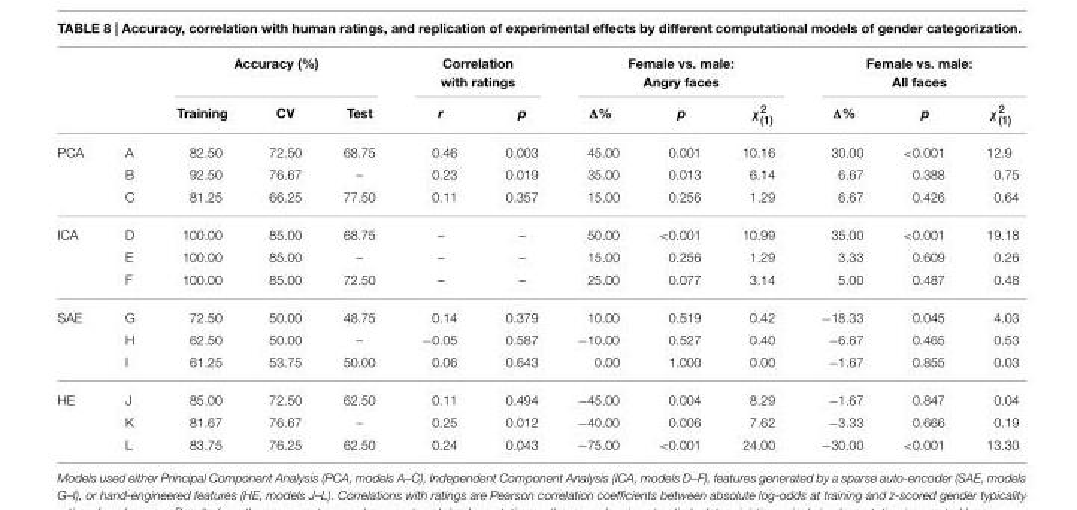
<table><thead><tr><td rowspan="2"></td><td rowspan="2"></td><td colspan="3">Accuracy (%)</td><td colspan="2">Correlation with ratings</td><td colspan="3">Female vs. male: Angry faces</td><td colspan="3">Female vs. male: All faces</td></tr><tr><td>Training</td><td>CV</td><td>Test</td><td>r</td><td>p</td><td>Δ%</td><td>p</td><td>χ<sup>2</sup> <sub>(1)</sub></td><td>Δ%</td><td>p</td><td>χ<sup>2</sup> <sub>(1)</sub></td></tr></thead><tbody><tr><td rowspan="3">PCA</td><td>A</td><td>82.50</td><td>72.50</td><td>68.75</td><td>0.46</td><td>0.003</td><td>45.00</td><td>0.001</td><td>10.16</td><td>30.00</td><td>&lt;0.001</td><td>12.9</td></tr><tr><td>B</td><td>92.50</td><td>76.67</td><td>–</td><td>0.23</td><td>0.019</td><td>35.00</td><td>0.013</td><td>6.14</td><td>6.67</td><td>0.388</td><td>0.75</td></tr><tr><td>C</td><td>81.25</td><td>66.25</td><td>77.50</td><td>0.11</td><td>0.357</td><td>15.00</td><td>0.256</td><td>1.29</td><td>6.67</td><td>0.426</td><td>0.64</td></tr><tr><td rowspan="3">ICA</td><td>D</td><td>100.00</td><td>85.00</td><td>68.75</td><td>–</td><td>–</td><td>50.00</td><td>&lt;0.001</td><td>10.99</td><td>35.00</td><td>&lt;0.001</td><td>19.18</td></tr><tr><td>E</td><td>100.00</td><td>85.00</td><td>–</td><td>–</td><td>–</td><td>15.00</td><td>0.256</td><td>1.29</td><td>3.33</td><td>0.609</td><td>0.26</td></tr><tr><td>F</td><td>100.00</td><td>85.00</td><td>72.50</td><td>–</td><td>–</td><td>25.00</td><td>0.077</td><td>3.14</td><td>5.00</td><td>0.487</td><td>0.48</td></tr><tr><td rowspan="3">SAE</td><td>G</td><td>72.50</td><td>50.00</td><td>48.75</td><td>0.14</td><td>0.379</td><td>10.00</td><td>0.519</td><td>0.42</td><td>−18.33</td><td>0.045</td><td>4.03</td></tr><tr><td>H</td><td>62.50</td><td>50.00</td><td>–</td><td>−0.05</td><td>0.587</td><td>−10.00</td><td>0.527</td><td>0.40</td><td>−6.67</td><td>0.465</td><td>0.53</td></tr><tr><td>I</td><td>61.25</td><td>53.75</td><td>50.00</td><td>0.06</td><td>0.643</td><td>0.00</td><td>1.000</td><td>0.00</td><td>−1.67</td><td>0.855</td><td>0.03</td></tr><tr><td rowspan="3">HE</td><td>J</td><td>85.00</td><td>72.50</td><td>62.50</td><td>0.11</td><td>0.494</td><td>−45.00</td><td>0.004</td><td>8.29</td><td>−1.67</td><td>0.847</td><td>0.04</td></tr><tr><td>K</td><td>81.67</td><td>76.67</td><td>–</td><td>0.25</td><td>0.012</td><td>−40.00</td><td>0.006</td><td>7.62</td><td>−3.33</td><td>0.666</td><td>0.19</td></tr><tr><td>L</td><td>83.75</td><td>76.25</td><td>62.50</td><td>0.24</td><td>0.043</td><td>−75.00</td><td>&lt;0.001</td><td>24.00</td><td>−30.00</td><td>&lt;0.001</td><td>13.30</td></tr></tbody></table>